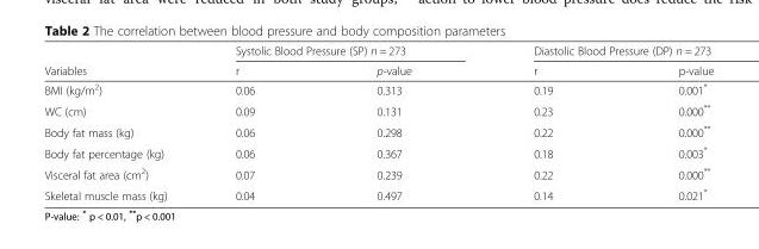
<table><thead><tr><td rowspan="2">Variables</td><td colspan="2">Systolic Blood Pressure (SP) n = 273</td><td colspan="2">Diastolic Blood Pressure (DP) n = 273</td></tr><tr><td>r</td><td>p-value</td><td>r</td><td>p-value</td></tr></thead><tbody><tr><td>BMI (kg/m<sup>2</sup>)</td><td>0.06</td><td>0.313</td><td>0.19</td><td>0.001*</td></tr><tr><td>WC (cm)</td><td>0.09</td><td>0.131</td><td>0.23</td><td>0.000**</td></tr><tr><td>Body fat mass (kg)</td><td>0.06</td><td>0.298</td><td>0.22</td><td>0.000**</td></tr><tr><td>Body fat percentage (kg)</td><td>0.06</td><td>0.367</td><td>0.18</td><td>0.003*</td></tr><tr><td>Visceral fat area (cm<sup>2</sup>)</td><td>0.07</td><td>0.239</td><td>0.22</td><td>0.000**</td></tr><tr><td>Skeletal muscle mass (kg)</td><td>0.04</td><td>0.497</td><td>0.14</td><td>0.021*</td></tr></tbody></table>